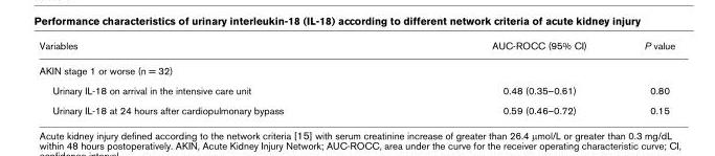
<table><thead><tr><td>Variables</td><td>AUC-ROCC (95% CI)</td><td>P value</td></tr></thead><tbody><tr><td colspan="3">AKIN stage 1 or worse (n = 32)</td></tr><tr><td>Urinary IL-18 on arrival in the intensive care unit</td><td>0.48 (0.35–0.61)</td><td>0.80</td></tr><tr><td>Urinary IL-18 at 24 hours after cardiopulmonary bypass</td><td>0.59 (0.46–0.72)</td><td>0.15</td></tr></tbody></table>